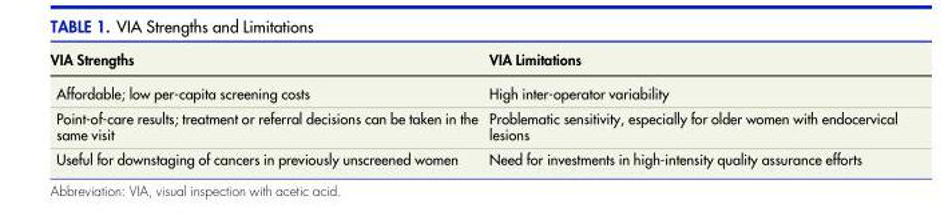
<table><thead><tr><td>VIA Strengths</td><td>VIA Limitations</td></tr></thead><tbody><tr><td>Affordable; low per-capita screening costs</td><td>High inter-operator variability</td></tr><tr><td>Point-of-care results; treatment or referral decisions can be taken in the same visit</td><td>Problematic sensitivity, especially for older women with endocervical lesions</td></tr><tr><td>Useful for downstaging of cancers in previously unscreened women</td><td>Need for investments in high-intensity quality assurance efforts</td></tr></tbody></table>